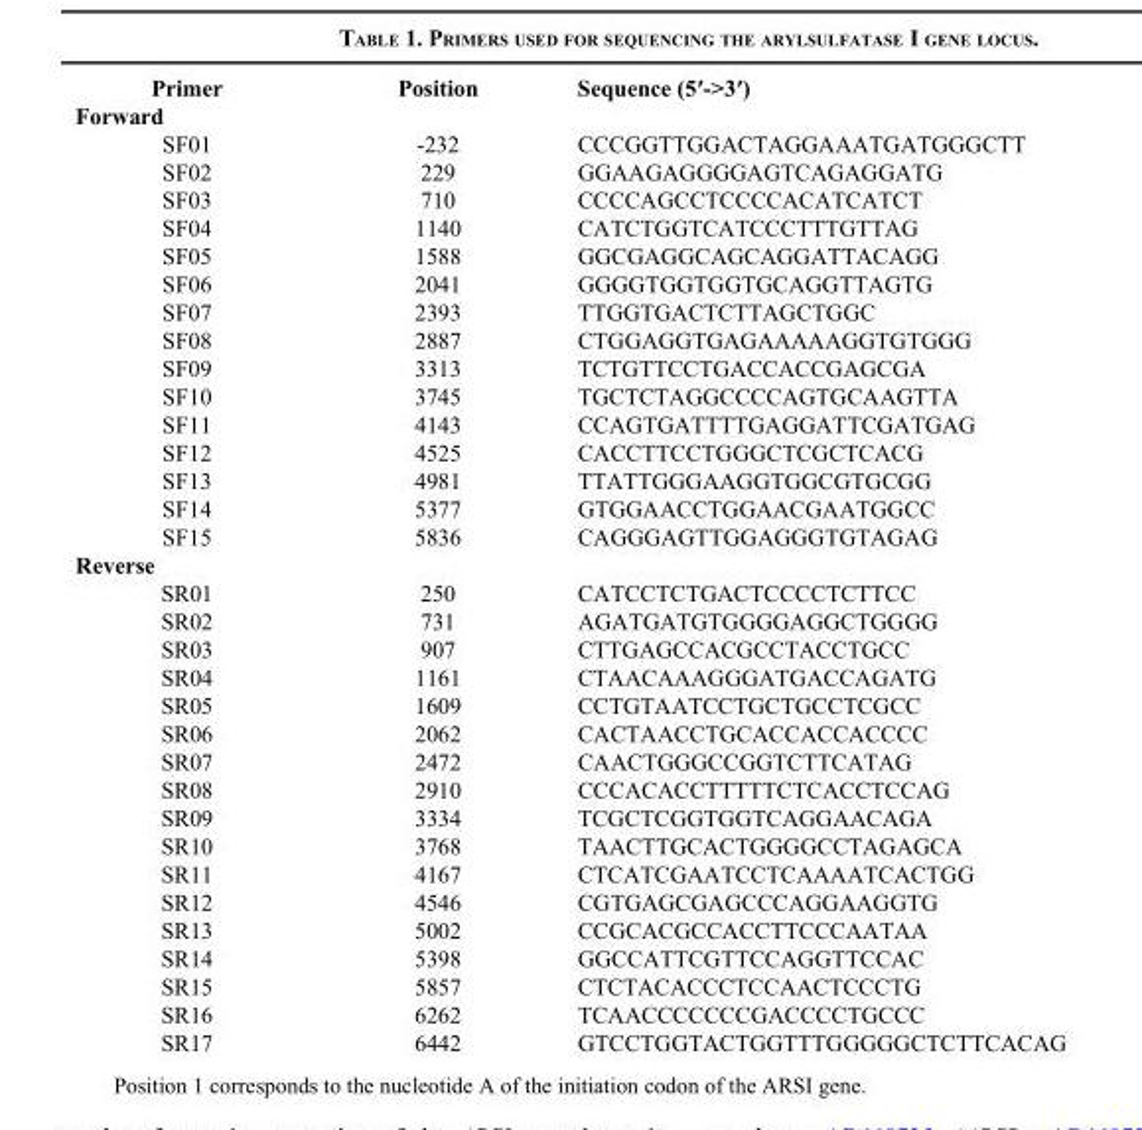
<table><thead><tr><td>Primer</td><td>Position</td><td>Sequence (5′-&gt;3′)</td></tr></thead><tbody><tr><td colspan="3">Forward</td></tr><tr><td>SF01</td><td>-232</td><td>CCCGGTTGGACTAGGAAATGATGGGCTT</td></tr><tr><td>SF02</td><td>229</td><td>GGAAGAGGGGAGTCAGAGGATG</td></tr><tr><td>SF03</td><td>710</td><td>CCCCAGCCTCCCCACATCATCT</td></tr><tr><td>SF04</td><td>1140</td><td>CATCTGGTCATCCCTTTGTTAG</td></tr><tr><td>SF05</td><td>1588</td><td>GGCGAGGCAGCAGGATTACAGG</td></tr><tr><td>SF06</td><td>2041</td><td>GGGGTGGTGGTGCAGGTTAGTG</td></tr><tr><td>SF07</td><td>2393</td><td>TTGGTGACTCTTAGCTGGC</td></tr><tr><td>SF08</td><td>2887</td><td>CTGGAGGTGAGAAAAAGGTGTGGG</td></tr><tr><td>SF09</td><td>3313</td><td>TCTGTTCCTGACCACCGAGCGA</td></tr><tr><td>SF10</td><td>3745</td><td>TGCTCTAGGCCCCAGTGCAAGTTA</td></tr><tr><td>SF11</td><td>4143</td><td>CCAGTGATTTTGAGGATTCGATGAG</td></tr><tr><td>SF12</td><td>4525</td><td>CACCTTCCTGGGCTCGCTCACG</td></tr><tr><td>SF13</td><td>4981</td><td>TTATTGGGAAGGTGGCGTGCGG</td></tr><tr><td>SF14</td><td>5377</td><td>GTGGAACCTGGAACGAATGGCC</td></tr><tr><td>SF15</td><td>5836</td><td>CAGGGAGTTGGAGGGTGTAGAG</td></tr><tr><td colspan="3">Reverse</td></tr><tr><td>SR01</td><td>250</td><td>CATCCTCTGACTCCCCTCTTCC</td></tr><tr><td>SR02</td><td>731</td><td>AGATGATGTGGGGAGGCTGGGG</td></tr><tr><td>SR03</td><td>907</td><td>CTTGAGCCACGCCTACCTGCC</td></tr><tr><td>SR04</td><td>1161</td><td>CTAACAAAGGGATGACCAGATG</td></tr><tr><td>SR05</td><td>1609</td><td>CCTGTAATCCTGCTGCCTCGCC</td></tr><tr><td>SR06</td><td>2062</td><td>CACTAACCTGCACCACCACCCC</td></tr><tr><td>SR07</td><td>2472</td><td>CAACTGGGCCGGTCTTCATAG</td></tr><tr><td>SR08</td><td>2910</td><td>CCCACACCTTTTTCTCACCTCCAG</td></tr><tr><td>SR09</td><td>3334</td><td>TCGCTCGGTGGTCAGGAACAGA</td></tr><tr><td>SR10</td><td>3768</td><td>TAACTTGCACTGGGGCCTAGAGCA</td></tr><tr><td>SR11</td><td>4167</td><td>CTCATCGAATCCTCAAAATCACTGG</td></tr><tr><td>SR12</td><td>4546</td><td>CGTGAGCGAGCCCAGGAAGGTG</td></tr><tr><td>SR13</td><td>5002</td><td>CCGCACGCCACCTTCCCAATAA</td></tr><tr><td>SR14</td><td>5398</td><td>GGCCATTCGTTCCAGGTTCCAC</td></tr><tr><td>SR15</td><td>5857</td><td>CTCTACACCCTCCAACTCCCTG</td></tr><tr><td>SR16</td><td>6262</td><td>TCAACCCCCCCGACCCCTGCCC</td></tr><tr><td>SR17</td><td>6442</td><td>GTCCTGGTACTGGTTTGGGGGCTCTTCACAG</td></tr></tbody></table>